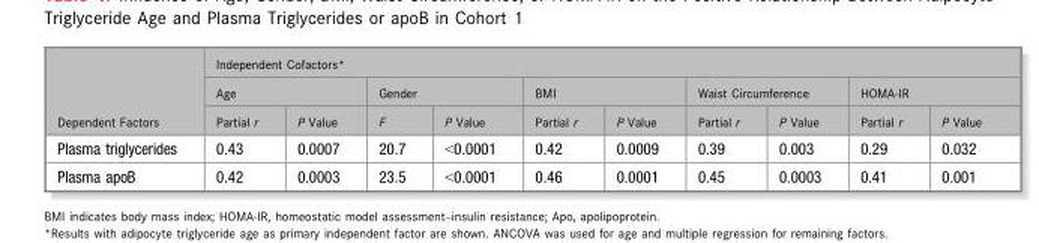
<table><thead><tr><td rowspan="3">Dependent Factors</td><td colspan="10">Independent Cofactors*</td></tr><tr><td colspan="2">Age</td><td colspan="2">Gender</td><td colspan="2">BMI</td><td colspan="2">Waist Circumference</td><td colspan="2">HOMA-IR</td></tr><tr><td>Partial r</td><td>P Value</td><td>F</td><td>P Value</td><td>Partial r</td><td>P Value</td><td>Partial r</td><td>P Value</td><td>Partial r</td><td>P Value</td></tr></thead><tbody><tr><td>Plasma triglycerides</td><td>0.43</td><td>0.0007</td><td>20.7</td><td>&lt;0.0001</td><td>0.42</td><td>0.0009</td><td>0.39</td><td>0.003</td><td>0.29</td><td>0.032</td></tr><tr><td>Plasma apoB</td><td>0.42</td><td>0.0003</td><td>23.5</td><td>&lt;0.0001</td><td>0.46</td><td>0.0001</td><td>0.45</td><td>0.0003</td><td>0.41</td><td>0.001</td></tr></tbody></table>